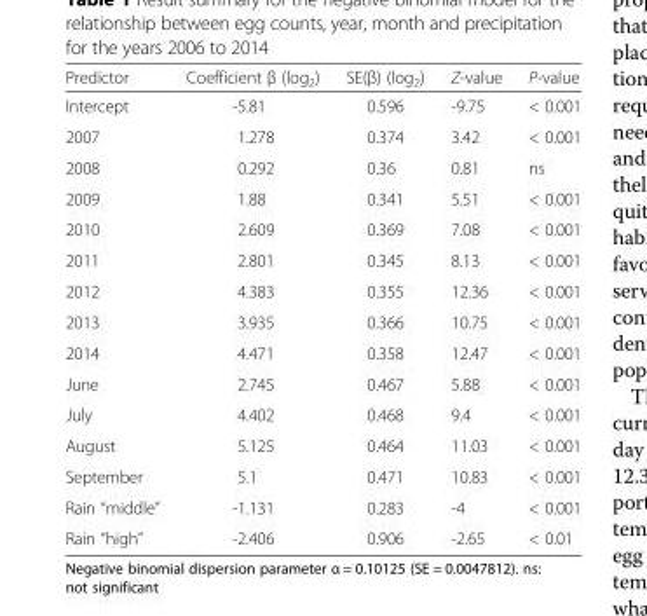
<table><thead><tr><td>Predictor</td><td>Coefficient β (log<sub>2</sub>)</td><td>SE(β) (log<sub>2</sub>)</td><td>Z-value</td><td>P-value</td></tr></thead><tbody><tr><td>Intercept</td><td>-5.81</td><td>0.596</td><td>-9.75</td><td>&lt; 0.001</td></tr><tr><td>2007</td><td>1.278</td><td>0.374</td><td>3.42</td><td>&lt; 0.001</td></tr><tr><td>2008</td><td>0.292</td><td>0.36</td><td>0.81</td><td>ns</td></tr><tr><td>2009</td><td>1.88</td><td>0.341</td><td>5.51</td><td>&lt; 0.001</td></tr><tr><td>2010</td><td>2.609</td><td>0.369</td><td>7.08</td><td>&lt; 0.001</td></tr><tr><td>2011</td><td>2.801</td><td>0.345</td><td>8.13</td><td>&lt; 0.001</td></tr><tr><td>2012</td><td>4.383</td><td>0.355</td><td>12.36</td><td>&lt; 0.001</td></tr><tr><td>2013</td><td>3.935</td><td>0.366</td><td>10.75</td><td>&lt; 0.001</td></tr><tr><td>2014</td><td>4.471</td><td>0.358</td><td>12.47</td><td>&lt; 0.001</td></tr><tr><td>June</td><td>2.745</td><td>0.467</td><td>5.88</td><td>&lt; 0.001</td></tr><tr><td>July</td><td>4.402</td><td>0.468</td><td>9.4</td><td>&lt; 0.001</td></tr><tr><td>August</td><td>5.125</td><td>0.464</td><td>11.03</td><td>&lt; 0.001</td></tr><tr><td>September</td><td>5.1</td><td>0.471</td><td>10.83</td><td>&lt; 0.001</td></tr><tr><td>Rain “middle”</td><td>-1.131</td><td>0.283</td><td>-4</td><td>&lt; 0.001</td></tr><tr><td>Rain “high”</td><td>-2.406</td><td>0.906</td><td>-2.65</td><td>&lt; 0.01</td></tr></tbody></table>